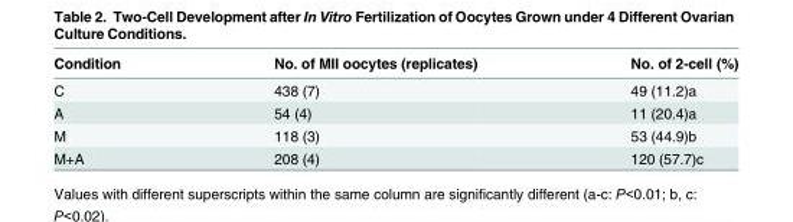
<table><thead><tr><td>Condition</td><td>No. of MII oocytes (replicates)</td><td>No. of 2-cell (%)</td></tr></thead><tbody><tr><td>C</td><td>438 (7)</td><td>49 (11.2)a</td></tr><tr><td>A</td><td>54 (4)</td><td>11 (20.4)a</td></tr><tr><td>M</td><td>118 (3)</td><td>53 (44.9)b</td></tr><tr><td>M+A</td><td>208 (4)</td><td>120 (57.7)c</td></tr></tbody></table>